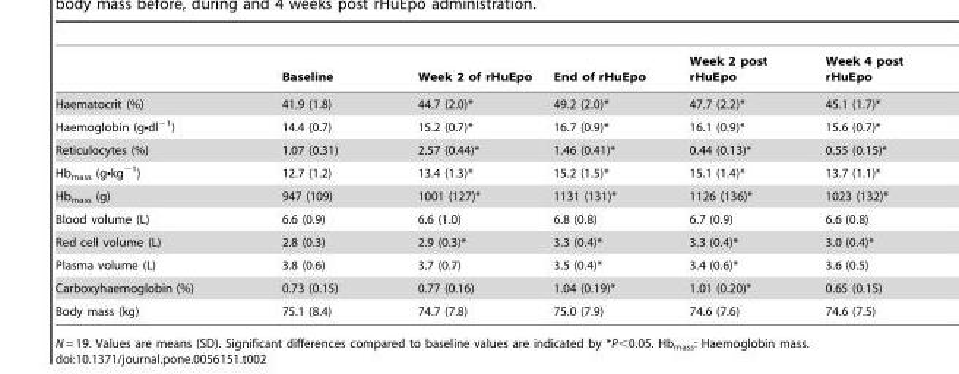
<table><thead><tr><td></td><td>Baseline</td><td>Week 2 of rHuEpo</td><td>End of rHuEpo</td><td>Week 2 post rHuEpo</td><td>Week 4 post rHuEpo</td></tr></thead><tbody><tr><td>Haematocrit (%)</td><td>41.9 (1.8)</td><td>44.7 (2.0)*</td><td>49.2 (2.0)*</td><td>47.7 (2.2)*</td><td>45.1 (1.7)*</td></tr><tr><td>Haemoglobin (g•dl<sup>−1</sup>)</td><td>14.4 (0.7)</td><td>15.2 (0.7)*</td><td>16.7 (0.9)*</td><td>16.1 (0.9)*</td><td>15.6 (0.7)*</td></tr><tr><td>Reticulocytes (%)</td><td>1.07 (0.31)</td><td>2.57 (0.44)*</td><td>1.46 (0.41)*</td><td>0.44 (0.13)*</td><td>0.55 (0.15)*</td></tr><tr><td>Hb<sub>mass</sub> (g•kg<sup>−1</sup>)</td><td>12.7 (1.2)</td><td>13.4 (1.3)*</td><td>15.2 (1.5)*</td><td>15.1 (1.4)*</td><td>13.7 (1.1)*</td></tr><tr><td>Hb<sub>mass</sub> (g)</td><td>947 (109)</td><td>1001 (127)*</td><td>1131 (131)*</td><td>1126 (136)*</td><td>1023 (132)*</td></tr><tr><td>Blood volume (L)</td><td>6.6 (0.9)</td><td>6.6 (1.0)</td><td>6.8 (0.8)</td><td>6.7 (0.9)</td><td>6.6 (0.8)</td></tr><tr><td>Red cell volume (L)</td><td>2.8 (0.3)</td><td>2.9 (0.3)*</td><td>3.3 (0.4)*</td><td>3.3 (0.4)*</td><td>3.0 (0.4)*</td></tr><tr><td>Plasma volume (L)</td><td>3.8 (0.6)</td><td>3.7 (0.7)</td><td>3.5 (0.4)*</td><td>3.4 (0.6)*</td><td>3.6 (0.5)</td></tr><tr><td>Carboxyhaemoglobin (%)</td><td>0.73 (0.15)</td><td>0.77 (0.16)</td><td>1.04 (0.19)*</td><td>1.01 (0.20)*</td><td>0.65 (0.15)</td></tr><tr><td>Body mass (kg)</td><td>75.1 (8.4)</td><td>74.7 (7.8)</td><td>75.0 (7.9)</td><td>74.6 (7.6)</td><td>74.6 (7.5)</td></tr></tbody></table>